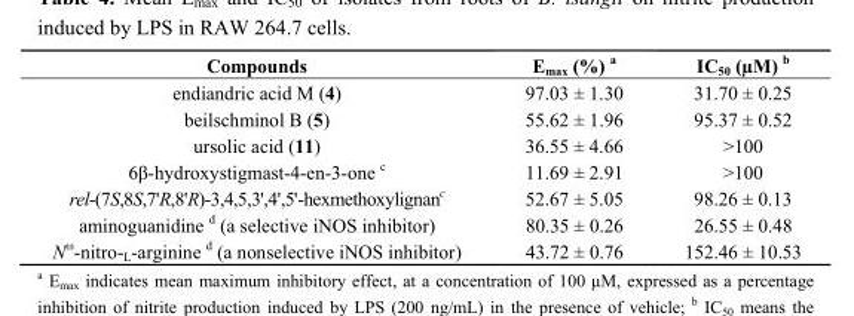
<table><thead><tr><td>Compounds</td><td>E<sub>max</sub> (%) a</td><td>IC<sub>50</sub> (µM) b</td></tr></thead><tbody><tr><td>endiandric acid M (4)</td><td>97.03 ± 1.30</td><td>31.70 ± 0.25</td></tr><tr><td>beilschminol B (5)</td><td>55.62 ± 1.96</td><td>95.37 ± 0.52</td></tr><tr><td>ursolic acid (11)</td><td>36.55 ± 4.66</td><td>&gt;100</td></tr><tr><td>6β-hydroxystigmast-4-en-3-one c</td><td>11.69 ± 2.91</td><td>&gt;100</td></tr><tr><td>rel-(7S,8S,7&#x27;R,8&#x27;R)-3,4,5,3&#x27;,4&#x27;,5&#x27;-hexmethoxylignan<sup>c</sup></td><td>52.67 ± 5.05</td><td>98.26 ± 0.13</td></tr><tr><td>aminoguanidine d (a selective iNOS inhibitor)</td><td>80.35 ± 0.26</td><td>26.55 ± 0.48</td></tr><tr><td>N<sup>ω</sup>-nitro-<sub>L</sub>-arginine d (a nonselective iNOS inhibitor)</td><td>43.72 ± 0.76</td><td>152.46 ± 10.53</td></tr></tbody></table>